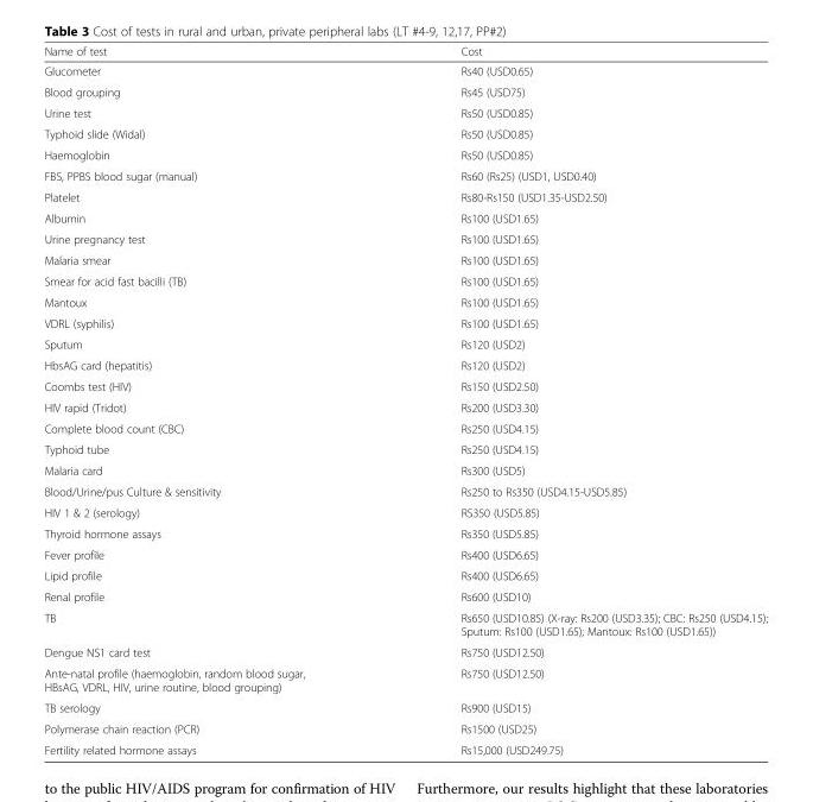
<table><thead><tr><td>Name of test</td><td>Cost</td></tr></thead><tbody><tr><td>Glucometer</td><td>Rs40 (USD0.65)</td></tr><tr><td>Blood grouping</td><td>Rs45 (USD75)</td></tr><tr><td>Urine test</td><td>Rs50 (USD0.85)</td></tr><tr><td>Typhoid slide (Widal)</td><td>Rs50 (USD0.85)</td></tr><tr><td>Haemoglobin</td><td>Rs50 (USD0.85)</td></tr><tr><td>FBS, PPBS blood sugar (manual)</td><td>Rs60 (Rs25) (USD1, USD0.40)</td></tr><tr><td>Platelet</td><td>Rs80-Rs150 (USD1.35-USD2.50)</td></tr><tr><td>Albumin</td><td>Rs100 (USD1.65)</td></tr><tr><td>Urine pregnancy test</td><td>Rs100 (USD1.65)</td></tr><tr><td>Malaria smear</td><td>Rs100 (USD1.65)</td></tr><tr><td>Smear for acid fast bacilli (TB)</td><td>Rs100 (USD1.65)</td></tr><tr><td>Mantoux</td><td>Rs100 (USD1.65)</td></tr><tr><td>VDRL (syphilis)</td><td>Rs100 (USD1.65)</td></tr><tr><td>Sputum</td><td>Rs120 (USD2)</td></tr><tr><td>HbsAG card (hepatitis)</td><td>Rs120 (USD2)</td></tr><tr><td>Coombs test (HIV)</td><td>Rs150 (USD2.50)</td></tr><tr><td>HIV rapid (Tridot)</td><td>Rs200 (USD3.30)</td></tr><tr><td>Complete blood count (CBC)</td><td>Rs250 (USD4.15)</td></tr><tr><td>Typhoid tube</td><td>Rs250 (USD4.15)</td></tr><tr><td>Malaria card</td><td>Rs300 (USD5)</td></tr><tr><td>Blood/Urine/pus Culture &amp; sensitivity</td><td>Rs250 to Rs350 (USD4.15-USD5.85)</td></tr><tr><td>HIV 1 &amp; 2 (serology)</td><td>RS350 (USD5.85)</td></tr><tr><td>Thyroid hormone assays</td><td>Rs350 (USD5.85)</td></tr><tr><td>Fever profile</td><td>Rs400 (USD6.65)</td></tr><tr><td>Lipid profile</td><td>Rs400 (USD6.65)</td></tr><tr><td>Renal profile</td><td>Rs600 (USD10)</td></tr><tr><td>TB</td><td>Rs650 (USD10.85) (X-ray: Rs200 (USD3.35); CBC: Rs250 (USD4.15); Sputum: Rs100 (USD1.65); Mantoux: Rs100 (USD1.65))</td></tr><tr><td>Dengue NS1 card test</td><td>Rs750 (USD12.50)</td></tr><tr><td>Ante-natal profile (haemoglobin, random blood sugar, HBsAG, VDRL, HIV, urine routine, blood grouping)</td><td>Rs750 (USD12.50)</td></tr><tr><td>TB serology</td><td>Rs900 (USD15)</td></tr><tr><td>Polymerase chain reaction (PCR)</td><td>Rs1500 (USD25)</td></tr><tr><td>Fertility related hormone assays</td><td>Rs15,000 (USD249.75)</td></tr></tbody></table>